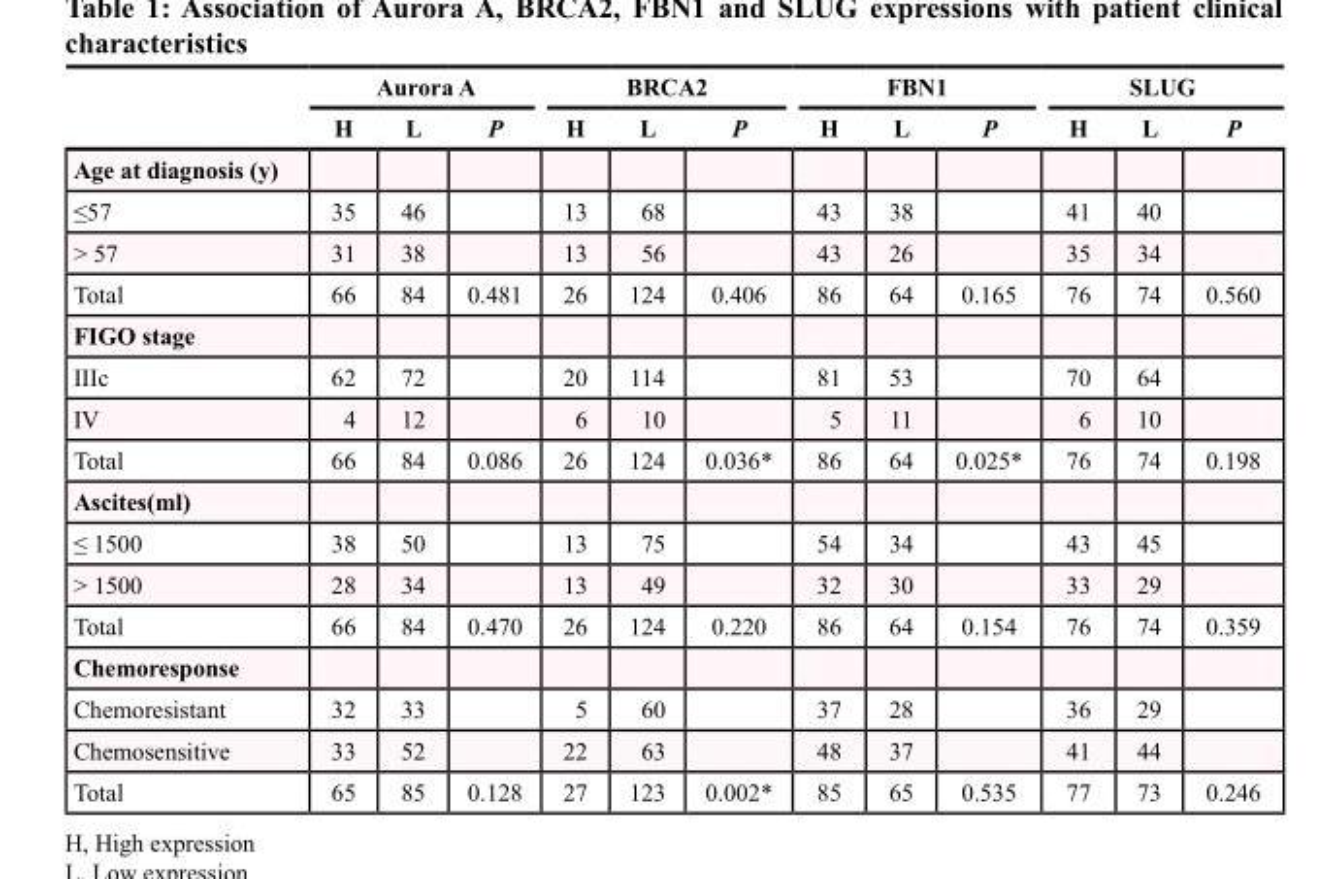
<table><thead><tr><td rowspan="2"></td><td colspan="3">Aurora A</td><td colspan="3">BRCA2</td><td colspan="3">FBN1</td><td colspan="3">SLUG</td></tr><tr><td>H</td><td>L</td><td>P</td><td>H</td><td>L</td><td>P</td><td>H</td><td>L</td><td>P</td><td>H</td><td>L</td><td>P</td></tr></thead><tbody><tr><td colspan="13">Age at diagnosis (y)</td></tr><tr><td>≤57</td><td>35</td><td>46</td><td></td><td>13</td><td>68</td><td></td><td>43</td><td>38</td><td></td><td>41</td><td>40</td><td></td></tr><tr><td>&gt; 57</td><td>31</td><td>38</td><td></td><td>13</td><td>56</td><td></td><td>43</td><td>26</td><td></td><td>35</td><td>34</td><td></td></tr><tr><td>Total</td><td>66</td><td>84</td><td>0.481</td><td>26</td><td>124</td><td>0.406</td><td>86</td><td>64</td><td>0.165</td><td>76</td><td>74</td><td>0.560</td></tr><tr><td colspan="13">FIGO stage</td></tr><tr><td>IIIc</td><td>62</td><td>72</td><td></td><td>20</td><td>114</td><td></td><td>81</td><td>53</td><td></td><td>70</td><td>64</td><td></td></tr><tr><td>IV</td><td>4</td><td>12</td><td></td><td>6</td><td>10</td><td></td><td>5</td><td>11</td><td></td><td>6</td><td>10</td><td></td></tr><tr><td>Total</td><td>66</td><td>84</td><td>0.086</td><td>26</td><td>124</td><td>0.036*</td><td>86</td><td>64</td><td>0.025*</td><td>76</td><td>74</td><td>0.198</td></tr><tr><td colspan="13">Ascites(ml)</td></tr><tr><td>≤ 1500</td><td>38</td><td>50</td><td></td><td>13</td><td>75</td><td></td><td>54</td><td>34</td><td></td><td>43</td><td>45</td><td></td></tr><tr><td>&gt; 1500</td><td>28</td><td>34</td><td></td><td>13</td><td>49</td><td></td><td>32</td><td>30</td><td></td><td>33</td><td>29</td><td></td></tr><tr><td>Total</td><td>66</td><td>84</td><td>0.470</td><td>26</td><td>124</td><td>0.220</td><td>86</td><td>64</td><td>0.154</td><td>76</td><td>74</td><td>0.359</td></tr><tr><td colspan="13">Chemoresponse</td></tr><tr><td>Chemoresistant</td><td>32</td><td>33</td><td></td><td>5</td><td>60</td><td></td><td>37</td><td>28</td><td></td><td>36</td><td>29</td><td></td></tr><tr><td>Chemosensitive</td><td>33</td><td>52</td><td></td><td>22</td><td>63</td><td></td><td>48</td><td>37</td><td></td><td>41</td><td>44</td><td></td></tr><tr><td>Total</td><td>65</td><td>85</td><td>0.128</td><td>27</td><td>123</td><td>0.002*</td><td>85</td><td>65</td><td>0.535</td><td>77</td><td>73</td><td>0.246</td></tr></tbody></table>